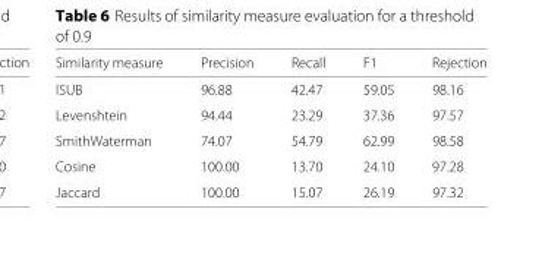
<table><thead><tr><td>Similarity measure</td><td>Precision</td><td>Recall</td><td>F1</td><td>Rejection</td></tr></thead><tbody><tr><td>ISUB</td><td>96.88</td><td>42.47</td><td>59.05</td><td>98.16</td></tr><tr><td>Levenshtein</td><td>94.44</td><td>23.29</td><td>37.36</td><td>97.57</td></tr><tr><td>SmithWaterman</td><td>74.07</td><td>54.79</td><td>62.99</td><td>98.58</td></tr><tr><td>Cosine</td><td>100.00</td><td>13.70</td><td>24.10</td><td>97.28</td></tr><tr><td>Jaccard</td><td>100.00</td><td>15.07</td><td>26.19</td><td>97.32</td></tr></tbody></table>